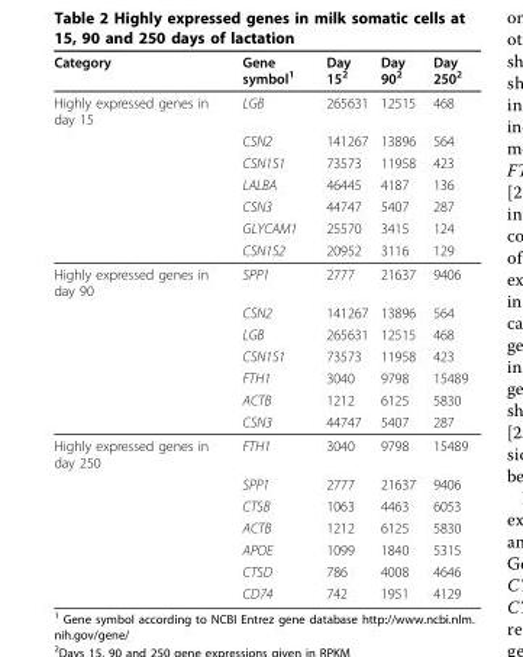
<table><thead><tr><td>Category</td><td>Gene symbol<sup>1</sup></td><td>Day 15<sup>2</sup></td><td>Day 90<sup>2</sup></td><td>Day 250<sup>2</sup></td></tr></thead><tbody><tr><td rowspan="7">Highly expressed genes in day 15</td><td>LGB</td><td>265631</td><td>12515</td><td>468</td></tr><tr><td>CSN2</td><td>141267</td><td>13896</td><td>564</td></tr><tr><td>CSN1S1</td><td>73573</td><td>11958</td><td>423</td></tr><tr><td>LALBA</td><td>46445</td><td>4187</td><td>136</td></tr><tr><td>CSN3</td><td>44747</td><td>5407</td><td>287</td></tr><tr><td>GLYCAM1</td><td>25570</td><td>3415</td><td>124</td></tr><tr><td>CSN1S2</td><td>20952</td><td>3116</td><td>129</td></tr><tr><td rowspan="7">Highly expressed genes in day 90</td><td>SPP1</td><td>2777</td><td>21637</td><td>9406</td></tr><tr><td>CSN2</td><td>141267</td><td>13896</td><td>564</td></tr><tr><td>LGB</td><td>265631</td><td>12515</td><td>468</td></tr><tr><td>CSN1S1</td><td>73573</td><td>11958</td><td>423</td></tr><tr><td>FTH1</td><td>3040</td><td>9798</td><td>15489</td></tr><tr><td>ACTB</td><td>1212</td><td>6125</td><td>5830</td></tr><tr><td>CSN3</td><td>44747</td><td>5407</td><td>287</td></tr><tr><td rowspan="7">Highly expressed genes in day 250</td><td>FTH1</td><td>3040</td><td>9798</td><td>15489</td></tr><tr><td>SPP1</td><td>2777</td><td>21637</td><td>9406</td></tr><tr><td>CTSB</td><td>1063</td><td>4463</td><td>6053</td></tr><tr><td>ACTB</td><td>1212</td><td>6125</td><td>5830</td></tr><tr><td>APOE</td><td>1099</td><td>1840</td><td>5315</td></tr><tr><td>CTSD</td><td>786</td><td>4008</td><td>4646</td></tr><tr><td>CD74</td><td>742</td><td>1951</td><td>4129</td></tr></tbody></table>